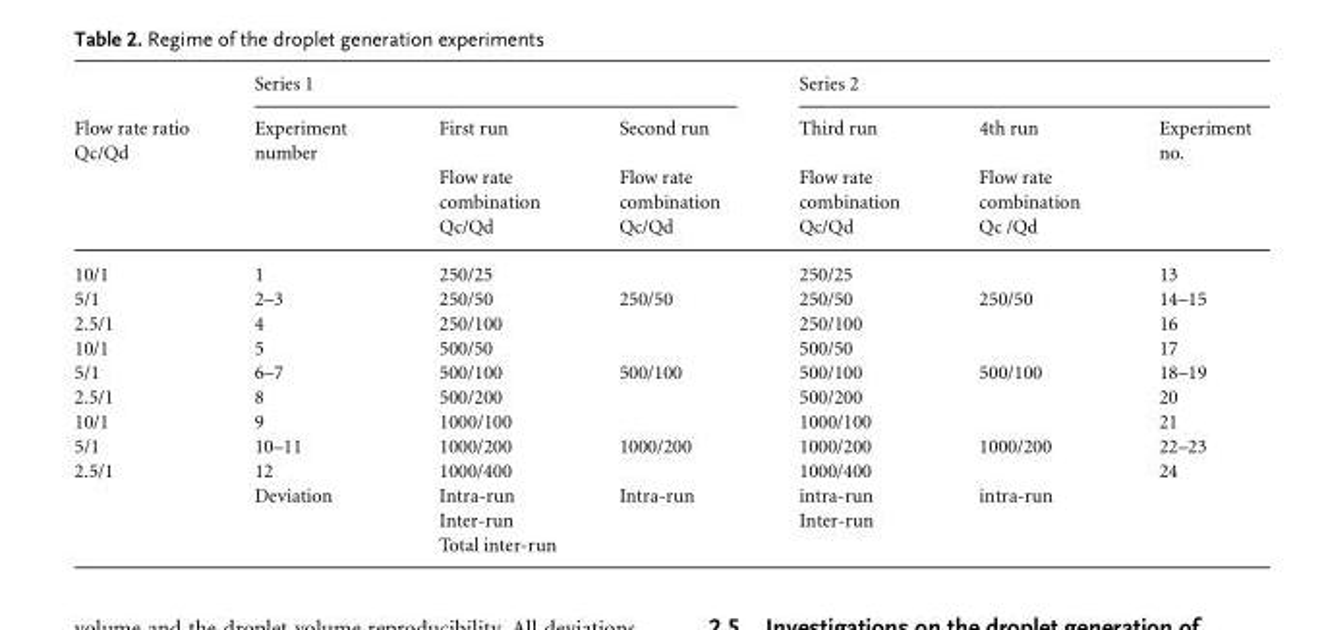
<table><thead><tr><td rowspan="3">Flow rate ratio Qc/Qd</td><td colspan="3">Series 1</td><td colspan="3">Series 2</td></tr><tr><td rowspan="2">Experiment number</td><td rowspan="2">First run Flow rate combination Qc/Qd</td><td rowspan="2">Second run Flow rate combination Qc/Qd</td><td rowspan="2">Third run Flow rate combination Qc/Qd</td><td rowspan="2">4th run Flow rate combination Qc /Qd</td><td rowspan="2">Experiment no.</td></tr><tr></tr></thead><tbody><tr><td>10/1</td><td>1</td><td>250/25</td><td></td><td>250/25</td><td></td><td>13</td></tr><tr><td>5/1</td><td>2–3</td><td>250/50</td><td>250/50</td><td>250/50</td><td>250/50</td><td>14–15</td></tr><tr><td>2.5/1</td><td>4</td><td>250/100</td><td></td><td>250/100</td><td></td><td>16</td></tr><tr><td>10/1</td><td>5</td><td>500/50</td><td></td><td>500/50</td><td></td><td>17</td></tr><tr><td>5/1</td><td>6–7</td><td>500/100</td><td>500/100</td><td>500/100</td><td>500/100</td><td>18–19</td></tr><tr><td>2.5/1</td><td>8</td><td>500/200</td><td></td><td>500/200</td><td></td><td>20</td></tr><tr><td>10/1</td><td>9</td><td>1000/100</td><td></td><td>1000/100</td><td></td><td>21</td></tr><tr><td>5/1</td><td>10–11</td><td>1000/200</td><td>1000/200</td><td>1000/200</td><td>1000/200</td><td>22–23</td></tr><tr><td rowspan="4">2.5/1</td><td>12</td><td>1000/400</td><td></td><td>1000/400</td><td></td><td>24</td></tr><tr><td>Deviation</td><td>Intra-run</td><td>Intra-run</td><td>intra-run</td><td>intra-run</td><td></td></tr><tr><td></td><td>Inter-run</td><td></td><td>Inter-run</td><td></td><td></td></tr><tr><td></td><td>Total inter-run</td><td></td><td></td><td></td><td></td></tr></tbody></table>